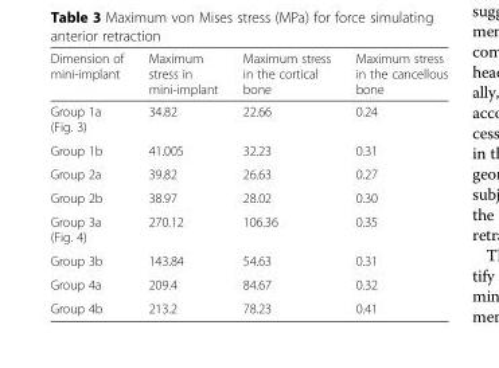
<table><thead><tr><td>Dimension of mini-implant</td><td>Maximum stress in mini-implant</td><td>Maximum stress in the cortical bone</td><td>Maximum stress in the cancellous bone</td></tr></thead><tbody><tr><td>Group 1a (Fig. 3)</td><td>34.82</td><td>22.66</td><td>0.24</td></tr><tr><td>Group 1b</td><td>41.005</td><td>32.23</td><td>0.31</td></tr><tr><td>Group 2a</td><td>39.82</td><td>26.63</td><td>0.27</td></tr><tr><td>Group 2b</td><td>38.97</td><td>28.02</td><td>0.30</td></tr><tr><td>Group 3a (Fig. 4)</td><td>270.12</td><td>106.36</td><td>0.35</td></tr><tr><td>Group 3b</td><td>143.84</td><td>54.63</td><td>0.31</td></tr><tr><td>Group 4a</td><td>209.4</td><td>84.67</td><td>0.32</td></tr><tr><td>Group 4b</td><td>213.2</td><td>78.23</td><td>0.41</td></tr></tbody></table>